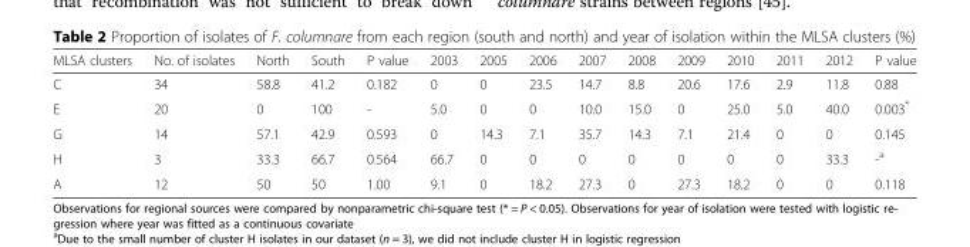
<table><thead><tr><td>MLSA clusters</td><td>No. of isolates</td><td>North</td><td>South</td><td>P value</td><td>2003</td><td>2005</td><td>2006</td><td>2007</td><td>2008</td><td>2009</td><td>2010</td><td>2011</td><td>2012</td><td>P value</td></tr></thead><tbody><tr><td>C</td><td>34</td><td>58.8</td><td>41.2</td><td>0.182</td><td>0</td><td>0</td><td>23.5</td><td>14.7</td><td>8.8</td><td>20.6</td><td>17.6</td><td>2.9</td><td>11.8</td><td>0.88</td></tr><tr><td>E</td><td>20</td><td>0</td><td>100</td><td>-</td><td>5.0</td><td>0</td><td>0</td><td>10.0</td><td>15.0</td><td>0</td><td>25.0</td><td>5.0</td><td>40.0</td><td>0.003*</td></tr><tr><td>G</td><td>14</td><td>57.1</td><td>42.9</td><td>0.593</td><td>0</td><td>14.3</td><td>7.1</td><td>35.7</td><td>14.3</td><td>7.1</td><td>21.4</td><td>0</td><td>0</td><td>0.145</td></tr><tr><td>H</td><td>3</td><td>33.3</td><td>66.7</td><td>0.564</td><td>66.7</td><td>0</td><td>0</td><td>0</td><td>0</td><td>0</td><td>0</td><td>0</td><td>33.3</td><td>-<sup>a</sup></td></tr><tr><td>A</td><td>12</td><td>50</td><td>50</td><td>1.00</td><td>9.1</td><td>0</td><td>18.2</td><td>27.3</td><td>0</td><td>27.3</td><td>18.2</td><td>0</td><td>0</td><td>0.118</td></tr></tbody></table>